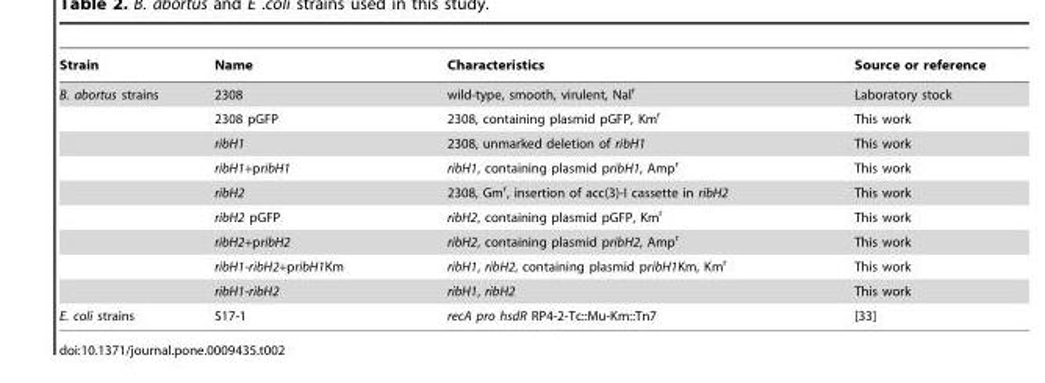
<table><thead><tr><td>Strain</td><td>Name</td><td>Characteristics</td><td>Source or reference</td></tr></thead><tbody><tr><td rowspan="9">B. abortus strains</td><td>2308</td><td>wild-type, smooth, virulent, Nal<sup>r</sup></td><td>Laboratory stock</td></tr><tr><td>2308 pGFP</td><td>2308, containing plasmid pGFP, Km<sup>r</sup></td><td>This work</td></tr><tr><td>ribH1</td><td>2308, unmarked deletion of ribH1</td><td>This work</td></tr><tr><td>ribH1+pribH1</td><td>ribH1, containing plasmid pribH1, Amp<sup>r</sup></td><td>This work</td></tr><tr><td>ribH2</td><td>2308, Gm<sup>r</sup>, insertion of acc(3)-I cassette in ribH2</td><td>This work</td></tr><tr><td>ribH2 pGFP</td><td>ribH2, containing plasmid pGFP, Km<sup>r</sup></td><td>This work</td></tr><tr><td>ribH2+pribH2</td><td>ribH2, containing plasmid pribH2, Amp<sup>r</sup></td><td>This work</td></tr><tr><td>ribH1-ribH2+pribH1Km</td><td>ribH1, ribH2, containing plasmid pribH1Km, Km<sup>r</sup></td><td>This work</td></tr><tr><td>ribH1-ribH2</td><td>ribH1, ribH2</td><td>This work</td></tr><tr><td>E. coli strains</td><td>S17-1</td><td>recA pro hsdR RP4-2-Tc::Mu-Km::Tn7</td><td>[33]</td></tr></tbody></table>